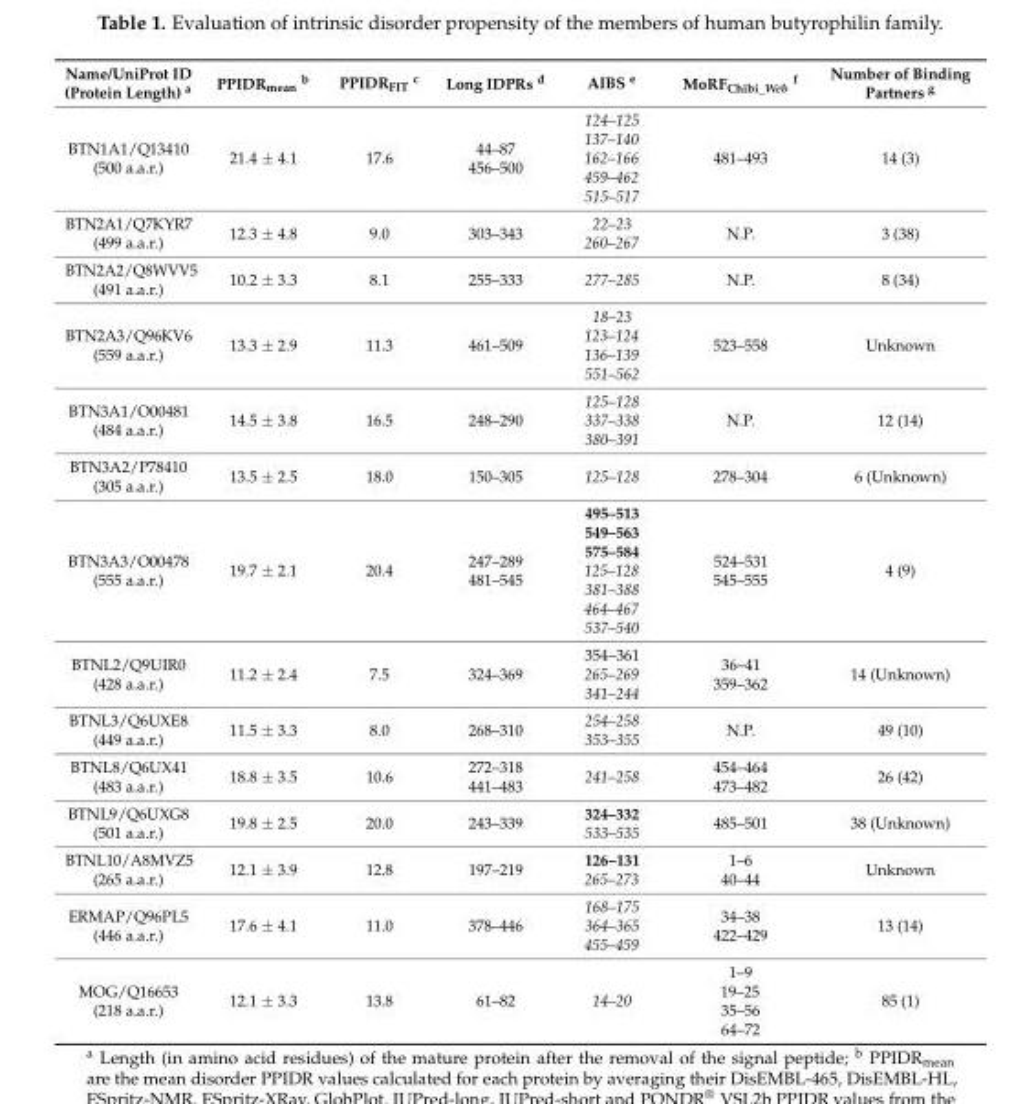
<table><thead><tr><td>Name/UniProt ID (Protein Length) <sup>a</sup></td><td>PPIDR<sub>mean</sub> <sup>b</sup></td><td>PPIDR<sub>FIT</sub> <sup>c</sup></td><td>Long IDPRs <sup>d</sup></td><td>AIBS <sup>e</sup></td><td>MoRF<sub>Chibi_Web</sub> <sup>f</sup></td><td>Number of Binding Partners <sup>g</sup></td></tr></thead><tbody><tr><td>BTN1A1/Q13410 (500 a.a.r.)</td><td>21.4 ± 4.1</td><td>17.6</td><td>44–87 456–500</td><td>124–125 137–140 162–166 459–462 515–517</td><td>481–493</td><td>14 (3)</td></tr><tr><td>BTN2A1/Q7KYR7 (499 a.a.r.)</td><td>12.3 ± 4.8</td><td>9.0</td><td>303–343</td><td>22–23 260–267</td><td>N.P.</td><td>3 (38)</td></tr><tr><td>BTN2A2/Q8WVV5 (491 a.a.r.)</td><td>10.2 ± 3.3</td><td>8.1</td><td>255–333</td><td>277–285</td><td>N.P.</td><td>8 (34)</td></tr><tr><td>BTN2A3/Q96KV6 (559 a.a.r.)</td><td>13.3 ± 2.9</td><td>11.3</td><td>461–509</td><td>18–23 123–124 136–139 551–562</td><td>523–558</td><td>Unknown</td></tr><tr><td>BTN3A1/O00481 (484 a.a.r.)</td><td>14.5 ± 3.8</td><td>16.5</td><td>248–290</td><td>125–128 337–338 380–391</td><td>N.P.</td><td>12 (14)</td></tr><tr><td>BTN3A2/P78410 (305 a.a.r.)</td><td>13.5 ± 2.5</td><td>18.0</td><td>150–305</td><td>125–128</td><td>278–304</td><td>6 (Unknown)</td></tr><tr><td>BTN3A3/O00478 (555 a.a.r.)</td><td>19.7 ± 2.1</td><td>20.4</td><td>247–289 481–545</td><td>495–513 549–563 575–584 125–128 381–388 464–467 537–540</td><td>524–531 545–555</td><td>4 (9)</td></tr><tr><td>BTNL2/Q9UIR0 (428 a.a.r.)</td><td>11.2 ± 2.4</td><td>7.5</td><td>324–369</td><td>354–361 265–269 341–244</td><td>36–41 359–362</td><td>14 (Unknown)</td></tr><tr><td>BTNL3/Q6UXE8 (449 a.a.r.)</td><td>11.5 ± 3.3</td><td>8.0</td><td>268–310</td><td>254–258 353–355</td><td>N.P.</td><td>49 (10)</td></tr><tr><td>BTNL8/Q6UX41 (483 a.a.r.)</td><td>18.8 ± 3.5</td><td>10.6</td><td>272–318 441–483</td><td>241–258</td><td>454–464 473–482</td><td>26 (42)</td></tr><tr><td>BTNL9/Q6UXG8 (501 a.a.r.)</td><td>19.8 ± 2.5</td><td>20.0</td><td>243–339</td><td>324–332 533–535</td><td>485–501</td><td>38 (Unknown)</td></tr><tr><td>BTNL10/A8MVZ5 (265 a.a.r.)</td><td>12.1 ± 3.9</td><td>12.8</td><td>197–219</td><td>126–131 265–273</td><td>1–6 40–44</td><td>Unknown</td></tr><tr><td>ERMAP/Q96PL5 (446 a.a.r.)</td><td>17.6 ± 4.1</td><td>11.0</td><td>378–446</td><td>168–175 364–365 455–459</td><td>34–38 422–429</td><td>13 (14)</td></tr><tr><td>MOG/Q16653 (218 a.a.r.)</td><td>12.1 ± 3.3</td><td>13.8</td><td>61–82</td><td>14–20</td><td>1–9 19–25 35–56 64–72</td><td>85 (1)</td></tr></tbody></table>